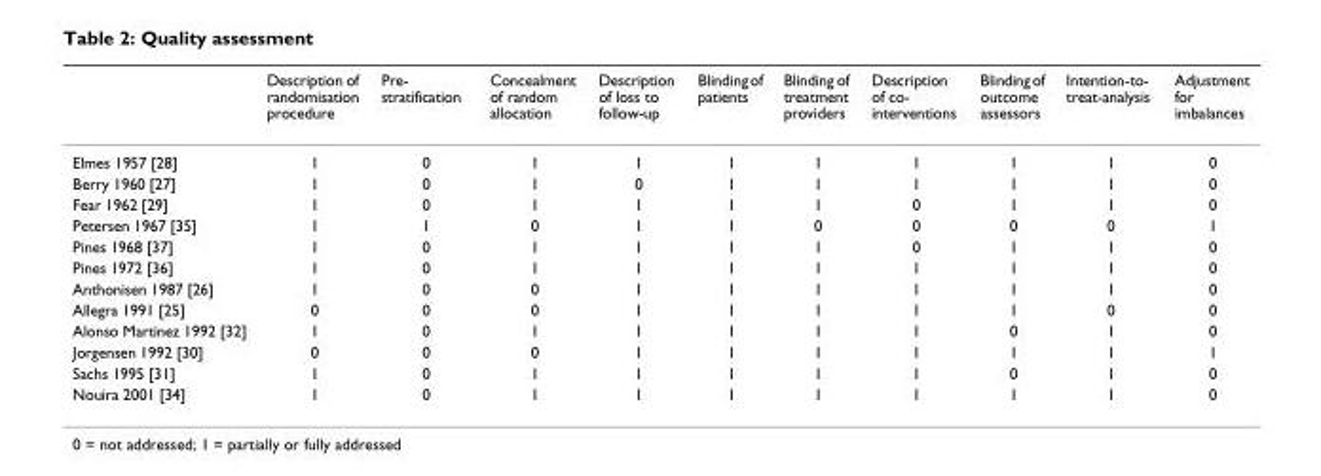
<table><thead><tr><td></td><td>Description of randomisation procedure</td><td>Pre- stratification</td><td>Concealment of random allocation</td><td>Description of loss to follow-up</td><td>Blinding of patients</td><td>Blinding of treatment providers</td><td>Description of co- interventions</td><td>Blinding of outcome assessors</td><td>Intention-to- treat-analysis</td><td>Adjustment for imbalances</td></tr></thead><tbody><tr><td>Elmes 1957 [28]</td><td>1</td><td>0</td><td>1</td><td>1</td><td>1</td><td>1</td><td>1</td><td>1</td><td>1</td><td>0</td></tr><tr><td>Berry 1960 [27]</td><td>1</td><td>0</td><td>1</td><td>0</td><td>1</td><td>1</td><td>1</td><td>1</td><td>1</td><td>0</td></tr><tr><td>Fear 1962 [29]</td><td>1</td><td>0</td><td>1</td><td>1</td><td>1</td><td>1</td><td>0</td><td>1</td><td>1</td><td>0</td></tr><tr><td>Petersen 1967 [35]</td><td>1</td><td>1</td><td>0</td><td>1</td><td>1</td><td>0</td><td>0</td><td>0</td><td>0</td><td>1</td></tr><tr><td>Pines 1968 [37]</td><td>1</td><td>0</td><td>1</td><td>1</td><td>1</td><td>1</td><td>0</td><td>1</td><td>1</td><td>0</td></tr><tr><td>Pines 1972 [36]</td><td>1</td><td>0</td><td>1</td><td>1</td><td>1</td><td>1</td><td>1</td><td>1</td><td>1</td><td>0</td></tr><tr><td>Anthonisen 1987 [26]</td><td>1</td><td>0</td><td>0</td><td>1</td><td>1</td><td>1</td><td>1</td><td>1</td><td>1</td><td>0</td></tr><tr><td>Allegra 1991 [25]</td><td>0</td><td>0</td><td>0</td><td>1</td><td>1</td><td>1</td><td>1</td><td>1</td><td>0</td><td>0</td></tr><tr><td>Alonso Martinez 1992 [32]</td><td>1</td><td>0</td><td>1</td><td>1</td><td>1</td><td>1</td><td>1</td><td>0</td><td>1</td><td>0</td></tr><tr><td>Jorgensen 1992 [30]</td><td>0</td><td>0</td><td>0</td><td>1</td><td>1</td><td>1</td><td>1</td><td>1</td><td>1</td><td>1</td></tr><tr><td>Sachs 1995 [31]</td><td>1</td><td>0</td><td>1</td><td>1</td><td>1</td><td>1</td><td>1</td><td>0</td><td>1</td><td>0</td></tr><tr><td>Nouira 2001 [34]</td><td>1</td><td>0</td><td>1</td><td>1</td><td>1</td><td>1</td><td>1</td><td>1</td><td>1</td><td>0</td></tr></tbody></table>